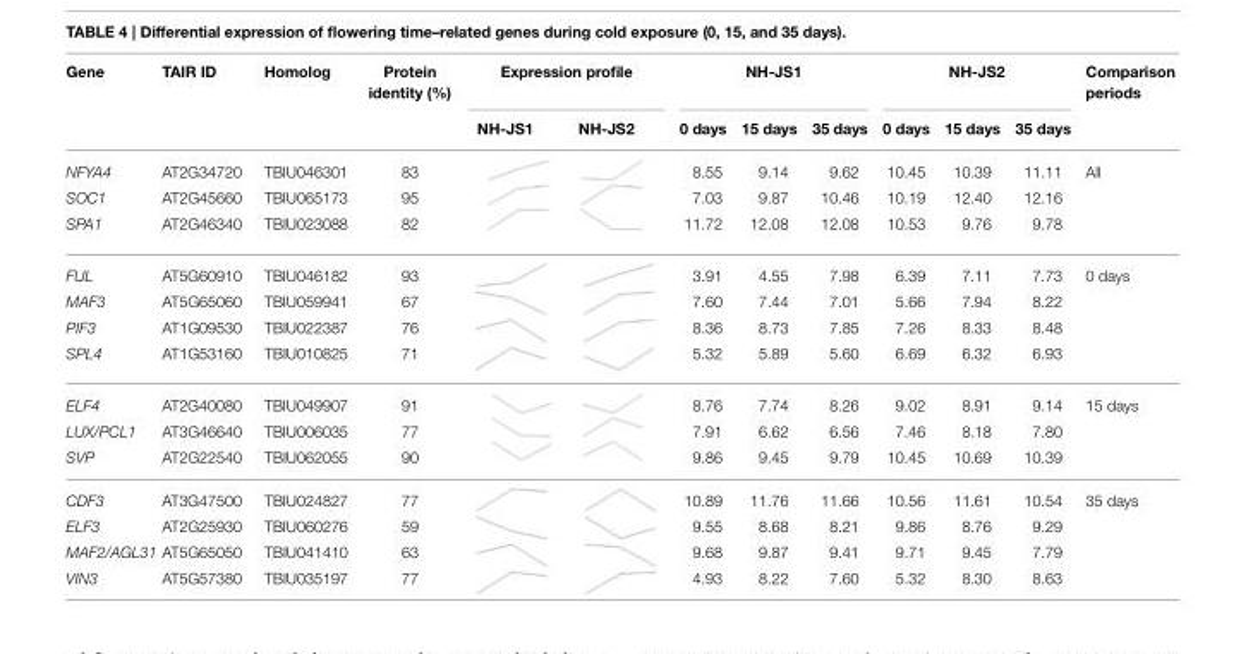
<table><thead><tr><td rowspan="2">Gene</td><td rowspan="2">TAIR ID</td><td rowspan="2">Homolog</td><td rowspan="2">Protein identity (%)</td><td colspan="2">Expression profile</td><td colspan="3">NH-JS1</td><td colspan="3">NH-JS2</td><td rowspan="2">Comparison periods</td></tr><tr><td>NH-JS1</td><td>NH-JS2</td><td>0 days</td><td>15 days</td><td>35 days</td><td>0 days</td><td>15 days</td><td>35 days</td></tr></thead><tbody><tr><td>NFYA4</td><td>AT2G34720</td><td>TBIU046301</td><td>83</td><td rowspan="3" colspan="2"></td><td>8.55</td><td>9.14</td><td>9.62</td><td>10.45</td><td>10.39</td><td>11.11</td><td>All</td></tr><tr><td>SOC1</td><td>AT2G45660</td><td>TBIU065173</td><td>95</td><td>7.03</td><td>9.87</td><td>10.46</td><td>10.19</td><td>12.40</td><td>12.16</td><td></td></tr><tr><td>SPA1</td><td>AT2G46340</td><td>TBIU023088</td><td>82</td><td>11.72</td><td>12.08</td><td>12.08</td><td>10.53</td><td>9.76</td><td>9.78</td><td></td></tr><tr><td>FUL</td><td>AT5G60910</td><td>TBIU046182</td><td>93</td><td rowspan="4" colspan="2"></td><td>3.91</td><td>4.55</td><td>7.98</td><td>6.39</td><td>7.11</td><td>7.73</td><td>0 days</td></tr><tr><td>MAF3</td><td>AT5G65060</td><td>TBIU059941</td><td>67</td><td>7.60</td><td>7.44</td><td>7.01</td><td>5.66</td><td>7.94</td><td>8.22</td><td></td></tr><tr><td>PIF3</td><td>AT1G09530</td><td>TBIU022387</td><td>76</td><td>8.36</td><td>8.73</td><td>7.85</td><td>7.26</td><td>8.33</td><td>8.48</td><td></td></tr><tr><td>SPL4</td><td>AT1G53160</td><td>TBIU010825</td><td>71</td><td>5.32</td><td>5.89</td><td>5.60</td><td>6.69</td><td>6.32</td><td>6.93</td><td></td></tr><tr><td>ELF4</td><td>AT2G40080</td><td>TBIU049907</td><td>91</td><td rowspan="3" colspan="2"></td><td>8.76</td><td>7.74</td><td>8.26</td><td>9.02</td><td>8.91</td><td>9.14</td><td>15 days</td></tr><tr><td>LUX/PCL1</td><td>AT3G46640</td><td>TBIU006035</td><td>77</td><td>7.91</td><td>6.62</td><td>6.56</td><td>7.46</td><td>8.18</td><td>7.80</td><td></td></tr><tr><td>SVP</td><td>AT2G22540</td><td>TBIU062055</td><td>90</td><td>9.86</td><td>9.45</td><td>9.79</td><td>10.45</td><td>10.69</td><td>10.39</td><td></td></tr><tr><td>CDF3</td><td>AT3G47500</td><td>TBIU024827</td><td>77</td><td rowspan="4" colspan="2"></td><td>10.89</td><td>11.76</td><td>11.66</td><td>10.56</td><td>11.61</td><td>10.54</td><td>35 days</td></tr><tr><td>ELF3</td><td>AT2G25930</td><td>TBIU060276</td><td>59</td><td>9.55</td><td>8.68</td><td>8.21</td><td>9.86</td><td>8.76</td><td>9.29</td><td></td></tr><tr><td>MAF2/AGL31</td><td>AT5G65050</td><td>TBIU041410</td><td>63</td><td>9.68</td><td>9.87</td><td>9.41</td><td>9.71</td><td>9.45</td><td>7.79</td><td></td></tr><tr><td>VIN3</td><td>AT5G57380</td><td>TBIU035197</td><td>77</td><td>4.93</td><td>8.22</td><td>7.60</td><td>5.32</td><td>8.30</td><td>8.63</td><td></td></tr></tbody></table>